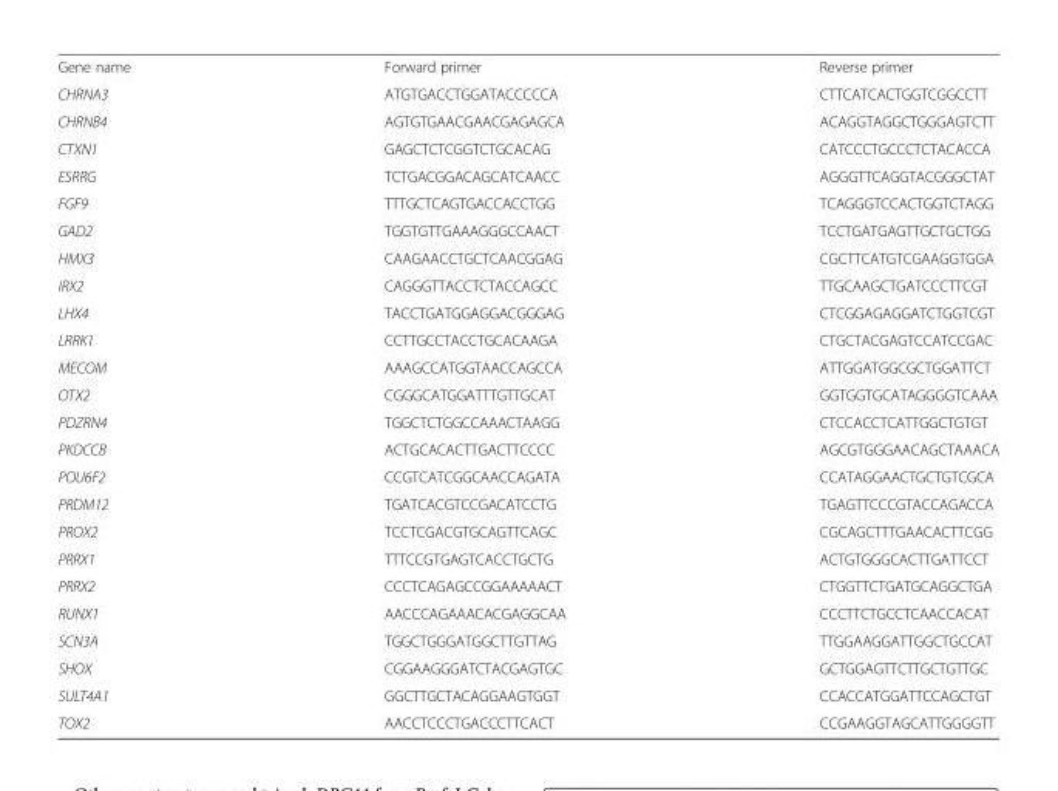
<table><tbody><tr><td>Gene name</td><td>Forward primer</td><td>Reverse primer</td></tr><tr><td>CHRNA3</td><td>ATGTGACCTGGATACCCCCA</td><td>CTTCATCACTGGTCGGCCTT</td></tr><tr><td>CHRNB4</td><td>AGTGTGAACGAACGAGAGCA</td><td>ACAGGTAGGCTGGGAGTCTT</td></tr><tr><td>CTXN1</td><td>GAGCTCTCGGTCTGCACAG</td><td>CATCCCTGCCCTCTACACCA</td></tr><tr><td>ESRRG</td><td>TCTGACGGACAGCATCAACC</td><td>AGGGTTCAGGTACGGGCTAT</td></tr><tr><td>FGF9</td><td>TTTGCTCAGTGACCACCTGG</td><td>TCAGGGTCCACTGGTCTAGG</td></tr><tr><td>GAD2</td><td>TGGTGTTGAAAGGGCCAACT</td><td>TCCTGATGAGTTGCTGCTGG</td></tr><tr><td>HMX3</td><td>CAAGAACCTGCTCAACGGAG</td><td>CGCTTCATGTCGAAGGTGGA</td></tr><tr><td>IRX2</td><td>CAGGGTTACCTCTACCAGCC</td><td>TTGCAAGCTGATCCCTTCGT</td></tr><tr><td>LHX4</td><td>TACCTGATGGAGGACGGGAG</td><td>CTCGGAGAGGATCTGGTCGT</td></tr><tr><td>LRRK1</td><td>CCTTGCCTACCTGCACAAGA</td><td>CTGCTACGAGTCCATCCGAC</td></tr><tr><td>MECOM</td><td>AAAGCCATGGTAACCAGCCA</td><td>ATTGGATGGCGCTGGATTCT</td></tr><tr><td>OTX2</td><td>CGGGCATGGATTTGTTGCAT</td><td>GGTGGTGCATAGGGGTCAAA</td></tr><tr><td>PDZRN4</td><td>TGGCTCTGGCCAAACTAAGG</td><td>CTCCACCTCATTGGCTGTGT</td></tr><tr><td>PKDCCB</td><td>ACTGCACACTTGACTTCCCC</td><td>AGCGTGGGAACAGCTAAACA</td></tr><tr><td>POU6F2</td><td>CCGTCATCGGCAACCAGATA</td><td>CCATAGGAACTGCTGTCGCA</td></tr><tr><td>PRDM12</td><td>TGATCACGTCCGACATCCTG</td><td>TGAGTTCCCGTACCAGACCA</td></tr><tr><td>PROX2</td><td>TCCTCGACGTGCAGTTCAGC</td><td>CGCAGCTTTGAACACTTCGG</td></tr><tr><td>PRRX1</td><td>TTTCCGTGAGTCACCTGCTG</td><td>ACTGTGGGCACTTGATTCCT</td></tr><tr><td>PRRX2</td><td>CCCTCAGAGCCGGAAAAACT</td><td>CTGGTTCTGATGCAGGCTGA</td></tr><tr><td>RUNX1</td><td>AACCCAGAAACACGAGGCAA</td><td>CCCTTCTGCCTCAACCACAT</td></tr><tr><td>SCN3A</td><td>TGGCTGGGATGGCTTGTTAG</td><td>TTGGAAGGATTGGCTGCCAT</td></tr><tr><td>SHOX</td><td>CGGAAGGGATCTACGAGTGC</td><td>GCTGGAGTTCTTGCTGTTGC</td></tr><tr><td>SULT4A1</td><td>GGCTTGCTACAGGAAGTGGT</td><td>CCACCATGGATTCCAGCTGT</td></tr><tr><td>TOX2</td><td>AACCTCCCTGACCCTTCACT</td><td>CCGAAGGTAGCATTGGGGTT</td></tr></tbody></table>